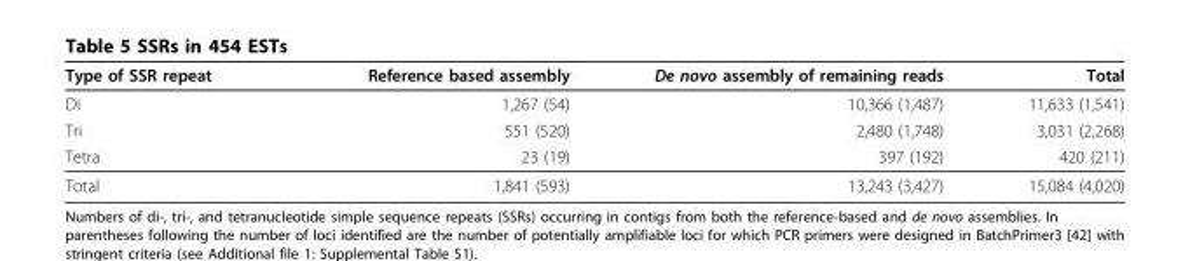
<table><thead><tr><td>Type of SSR repeat</td><td>Reference based assembly</td><td>De novo assembly of remaining reads</td><td>Total</td></tr></thead><tbody><tr><td>Di</td><td>1,267 (54)</td><td>10,366 (1,487)</td><td>11,633 (1,541)</td></tr><tr><td>Tri</td><td>551 (520)</td><td>2,480 (1,748)</td><td>3,031 (2,268)</td></tr><tr><td>Tetra</td><td>23 (19)</td><td>397 (192)</td><td>420 (211)</td></tr><tr><td>Total</td><td>1,841 (593)</td><td>13,243 (3,427)</td><td>15,084 (4,020)</td></tr></tbody></table>